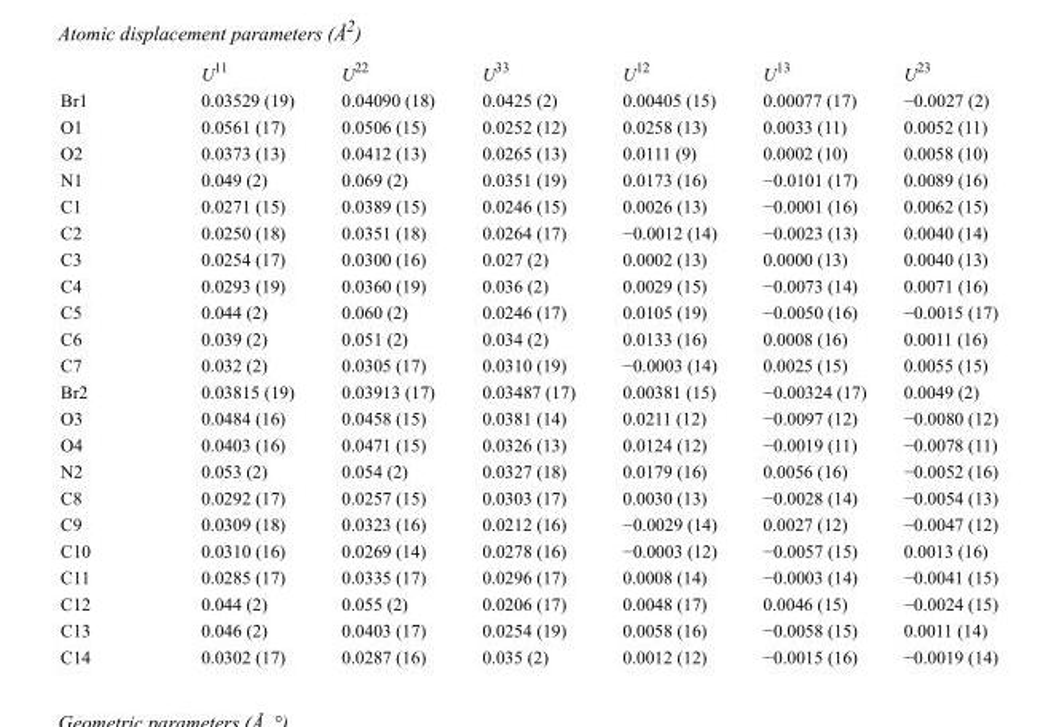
<table><thead><tr><td></td><td>U<sup>11</sup></td><td>U<sup>22</sup></td><td>U<sup>33</sup></td><td>U<sup>12</sup></td><td>U<sup>13</sup></td><td>U<sup>23</sup></td></tr></thead><tbody><tr><td>Br1</td><td>0.03529 (19)</td><td>0.04090 (18)</td><td>0.0425 (2)</td><td>0.00405 (15)</td><td>0.00077 (17)</td><td>−0.0027 (2)</td></tr><tr><td>O1</td><td>0.0561 (17)</td><td>0.0506 (15)</td><td>0.0252 (12)</td><td>0.0258 (13)</td><td>0.0033 (11)</td><td>0.0052 (11)</td></tr><tr><td>O2</td><td>0.0373 (13)</td><td>0.0412 (13)</td><td>0.0265 (13)</td><td>0.0111 (9)</td><td>0.0002 (10)</td><td>0.0058 (10)</td></tr><tr><td>N1</td><td>0.049 (2)</td><td>0.069 (2)</td><td>0.0351 (19)</td><td>0.0173 (16)</td><td>−0.0101 (17)</td><td>0.0089 (16)</td></tr><tr><td>C1</td><td>0.0271 (15)</td><td>0.0389 (15)</td><td>0.0246 (15)</td><td>0.0026 (13)</td><td>−0.0001 (16)</td><td>0.0062 (15)</td></tr><tr><td>C2</td><td>0.0250 (18)</td><td>0.0351 (18)</td><td>0.0264 (17)</td><td>−0.0012 (14)</td><td>−0.0023 (13)</td><td>0.0040 (14)</td></tr><tr><td>C3</td><td>0.0254 (17)</td><td>0.0300 (16)</td><td>0.027 (2)</td><td>0.0002 (13)</td><td>0.0000 (13)</td><td>0.0040 (13)</td></tr><tr><td>C4</td><td>0.0293 (19)</td><td>0.0360 (19)</td><td>0.036 (2)</td><td>0.0029 (15)</td><td>−0.0073 (14)</td><td>0.0071 (16)</td></tr><tr><td>C5</td><td>0.044 (2)</td><td>0.060 (2)</td><td>0.0246 (17)</td><td>0.0105 (19)</td><td>−0.0050 (16)</td><td>−0.0015 (17)</td></tr><tr><td>C6</td><td>0.039 (2)</td><td>0.051 (2)</td><td>0.034 (2)</td><td>0.0133 (16)</td><td>0.0008 (16)</td><td>0.0011 (16)</td></tr><tr><td>C7</td><td>0.032 (2)</td><td>0.0305 (17)</td><td>0.0310 (19)</td><td>−0.0003 (14)</td><td>0.0025 (15)</td><td>0.0055 (15)</td></tr><tr><td>Br2</td><td>0.03815 (19)</td><td>0.03913 (17)</td><td>0.03487 (17)</td><td>0.00381 (15)</td><td>−0.00324 (17)</td><td>0.0049 (2)</td></tr><tr><td>O3</td><td>0.0484 (16)</td><td>0.0458 (15)</td><td>0.0381 (14)</td><td>0.0211 (12)</td><td>−0.0097 (12)</td><td>−0.0080 (12)</td></tr><tr><td>O4</td><td>0.0403 (16)</td><td>0.0471 (15)</td><td>0.0326 (13)</td><td>0.0124 (12)</td><td>−0.0019 (11)</td><td>−0.0078 (11)</td></tr><tr><td>N2</td><td>0.053 (2)</td><td>0.054 (2)</td><td>0.0327 (18)</td><td>0.0179 (16)</td><td>0.0056 (16)</td><td>−0.0052 (16)</td></tr><tr><td>C8</td><td>0.0292 (17)</td><td>0.0257 (15)</td><td>0.0303 (17)</td><td>0.0030 (13)</td><td>−0.0028 (14)</td><td>−0.0054 (13)</td></tr><tr><td>C9</td><td>0.0309 (18)</td><td>0.0323 (16)</td><td>0.0212 (16)</td><td>−0.0029 (14)</td><td>0.0027 (12)</td><td>−0.0047 (12)</td></tr><tr><td>C10</td><td>0.0310 (16)</td><td>0.0269 (14)</td><td>0.0278 (16)</td><td>−0.0003 (12)</td><td>−0.0057 (15)</td><td>0.0013 (16)</td></tr><tr><td>C11</td><td>0.0285 (17)</td><td>0.0335 (17)</td><td>0.0296 (17)</td><td>0.0008 (14)</td><td>−0.0003 (14)</td><td>−0.0041 (15)</td></tr><tr><td>C12</td><td>0.044 (2)</td><td>0.055 (2)</td><td>0.0206 (17)</td><td>0.0048 (17)</td><td>0.0046 (15)</td><td>−0.0024 (15)</td></tr><tr><td>C13</td><td>0.046 (2)</td><td>0.0403 (17)</td><td>0.0254 (19)</td><td>0.0058 (16)</td><td>−0.0058 (15)</td><td>0.0011 (14)</td></tr><tr><td>C14</td><td>0.0302 (17)</td><td>0.0287 (16)</td><td>0.035 (2)</td><td>0.0012 (12)</td><td>−0.0015 (16)</td><td>−0.0019 (14)</td></tr></tbody></table>